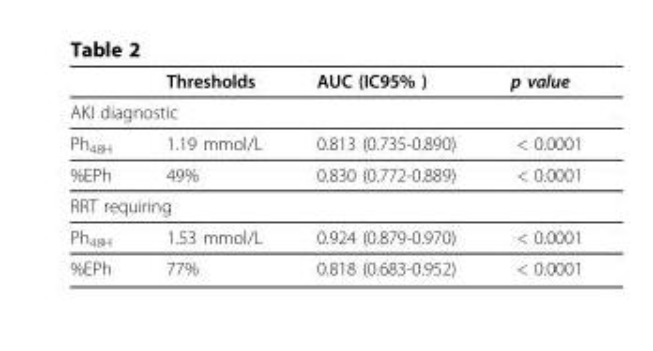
<table><thead><tr><td></td><td>Thresholds</td><td>AUC (IC95% )</td><td>p value</td></tr></thead><tbody><tr><td colspan="4">AKI diagnostic</td></tr><tr><td>Ph<sub>48H</sub></td><td>1.19 mmol/L</td><td>0.813 (0.735-0.890)</td><td>&lt; 0.0001</td></tr><tr><td>%EPh</td><td>49%</td><td>0.830 (0.772-0.889)</td><td>&lt; 0.0001</td></tr><tr><td colspan="4">RRT requiring</td></tr><tr><td>Ph<sub>48H</sub></td><td>1.53 mmol/L</td><td>0.924 (0.879-0.970)</td><td>&lt; 0.0001</td></tr><tr><td>%EPh</td><td>77%</td><td>0.818 (0.683-0.952)</td><td>&lt; 0.0001</td></tr></tbody></table>